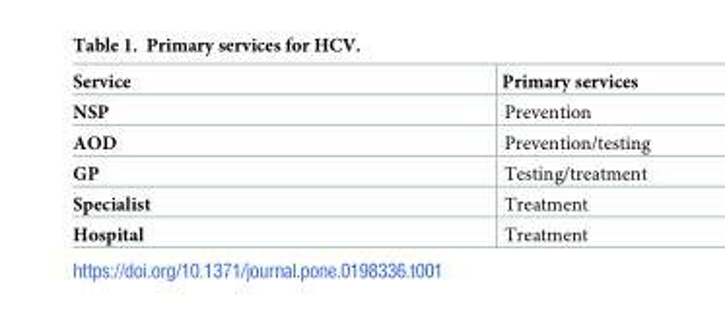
<table><thead><tr><td>Service</td><td>Primary services</td></tr></thead><tbody><tr><td>NSP</td><td>Prevention</td></tr><tr><td>AOD</td><td>Prevention/testing</td></tr><tr><td>GP</td><td>Testing/treatment</td></tr><tr><td>Specialist</td><td>Treatment</td></tr><tr><td>Hospital</td><td>Treatment</td></tr></tbody></table>